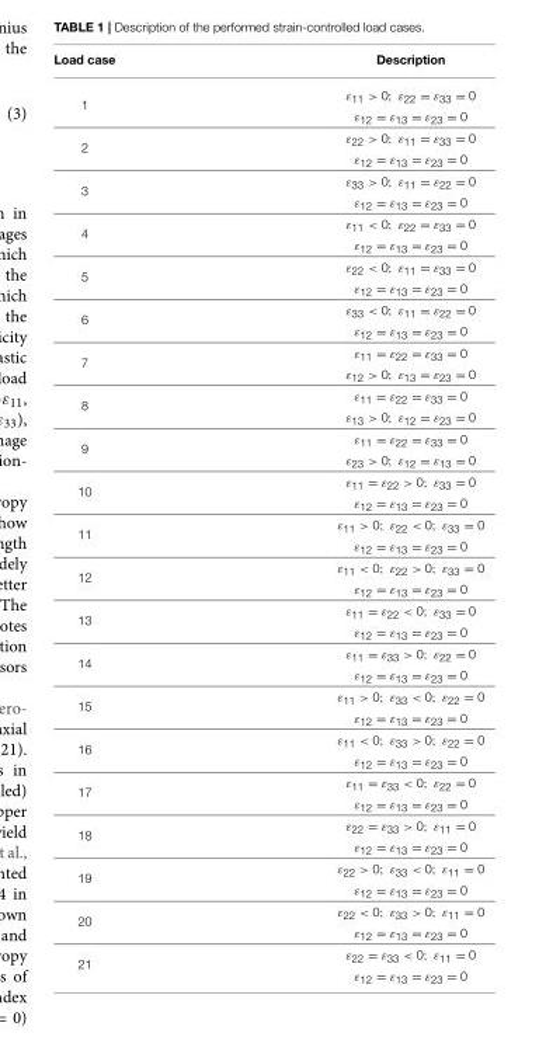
<table><thead><tr><td>Load case</td><td>Description</td></tr></thead><tbody><tr><td rowspan="2">1</td><td>ε<sub>11</sub> &gt; 0; ε<sub>22</sub> = ε<sub>33</sub> = 0</td></tr><tr><td>ε<sub>12</sub> = ε<sub>13</sub> = ε<sub>23</sub> = 0</td></tr><tr><td rowspan="2">2</td><td>ε<sub>22</sub> &gt; 0; ε<sub>11</sub> = ε<sub>33</sub> = 0</td></tr><tr><td>ε<sub>12</sub> = ε<sub>13</sub> = ε<sub>23</sub> = 0</td></tr><tr><td rowspan="2">3</td><td>ε<sub>33</sub> &gt; 0; ε<sub>11</sub> = ε<sub>22</sub> = 0</td></tr><tr><td>ε<sub>12</sub> = ε<sub>13</sub> = ε<sub>23</sub> = 0</td></tr><tr><td rowspan="2">4</td><td>ε<sub>11</sub> &lt; 0; ε<sub>22</sub> = ε<sub>33</sub> = 0</td></tr><tr><td>ε<sub>12</sub> = ε<sub>13</sub> = ε<sub>23</sub> = 0</td></tr><tr><td rowspan="2">5</td><td>ε<sub>22</sub> &lt; 0; ε<sub>11</sub> = ε<sub>33</sub> = 0</td></tr><tr><td>ε<sub>12</sub> = ε<sub>13</sub> = ε<sub>23</sub> = 0</td></tr><tr><td rowspan="2">6</td><td>ε<sub>33</sub> &lt; 0; ε<sub>11</sub> = ε<sub>22</sub> = 0</td></tr><tr><td>ε<sub>12</sub> = ε<sub>13</sub> = ε<sub>23</sub> = 0</td></tr><tr><td rowspan="2">7</td><td>ε<sub>11</sub> = ε<sub>22</sub> = ε<sub>33</sub> = 0</td></tr><tr><td>ε<sub>12</sub> &gt; 0; ε<sub>13</sub> = ε<sub>23</sub> = 0</td></tr><tr><td rowspan="2">8</td><td>ε<sub>11</sub> = ε<sub>22</sub> = ε<sub>33</sub> = 0</td></tr><tr><td>ε<sub>13</sub> &gt; 0; ε<sub>12</sub> = ε<sub>23</sub> = 0</td></tr><tr><td rowspan="2">9</td><td>ε<sub>11</sub> = ε<sub>22</sub> = ε<sub>33</sub> = 0</td></tr><tr><td>ε<sub>23</sub> &gt; 0; ε<sub>12</sub> = ε<sub>13</sub> = 0</td></tr><tr><td rowspan="2">10</td><td>ε<sub>11</sub> = ε<sub>22</sub> &gt; 0; ε<sub>33</sub> = 0</td></tr><tr><td>ε<sub>12</sub> = ε<sub>13</sub> = ε<sub>23</sub> = 0</td></tr><tr><td rowspan="2">11</td><td>ε<sub>11</sub> &gt; 0; ε<sub>22</sub> &lt; 0; ε<sub>33</sub> = 0</td></tr><tr><td>ε<sub>12</sub> = ε<sub>13</sub> = ε<sub>23</sub> = 0</td></tr><tr><td rowspan="2">12</td><td>ε<sub>11</sub> &lt; 0; ε<sub>22</sub> &gt; 0; ε<sub>33</sub> = 0</td></tr><tr><td>ε<sub>12</sub> = ε<sub>13</sub> = ε<sub>23</sub> = 0</td></tr><tr><td rowspan="2">13</td><td>ε<sub>11</sub> = ε<sub>22</sub> &lt; 0; ε<sub>33</sub> = 0</td></tr><tr><td>ε<sub>12</sub> = ε<sub>13</sub> = ε<sub>23</sub> = 0</td></tr><tr><td rowspan="2">14</td><td>ε<sub>11</sub> = ε<sub>33</sub> &gt; 0; ε<sub>22</sub> = 0</td></tr><tr><td>ε<sub>12</sub> = ε<sub>13</sub> = ε<sub>23</sub> = 0</td></tr><tr><td rowspan="2">15</td><td>ε<sub>11</sub> &gt; 0; ε<sub>33</sub> &lt; 0; ε<sub>22</sub> = 0</td></tr><tr><td>ε<sub>12</sub> = ε<sub>13</sub> = ε<sub>23</sub> = 0</td></tr><tr><td rowspan="2">16</td><td>ε<sub>11</sub> &lt; 0; ε<sub>33</sub> &gt; 0; ε<sub>22</sub> = 0</td></tr><tr><td>ε<sub>12</sub> = ε<sub>13</sub> = ε<sub>23</sub> = 0</td></tr><tr><td rowspan="2">17</td><td>ε<sub>11</sub> = ε<sub>33</sub> &lt; 0; ε<sub>22</sub> = 0</td></tr><tr><td>ε<sub>12</sub> = ε<sub>13</sub> = ε<sub>23</sub> = 0</td></tr><tr><td rowspan="2">18</td><td>ε<sub>22</sub> = ε<sub>33</sub> &gt; 0; ε<sub>11</sub> = 0</td></tr><tr><td>ε<sub>12</sub> = ε<sub>13</sub> = ε<sub>23</sub> = 0</td></tr><tr><td rowspan="2">19</td><td>ε<sub>22</sub> &gt; 0; ε<sub>33</sub> &lt; 0; ε<sub>11</sub> = 0</td></tr><tr><td>ε<sub>12</sub> = ε<sub>13</sub> = ε<sub>23</sub> = 0</td></tr><tr><td rowspan="2">20</td><td>ε<sub>22</sub> &lt; 0; ε<sub>33</sub> &gt; 0; ε<sub>11</sub> = 0</td></tr><tr><td>ε<sub>12</sub> = ε<sub>13</sub> = ε<sub>23</sub> = 0</td></tr><tr><td rowspan="2">21</td><td>ε<sub>22</sub> = ε<sub>33</sub> &lt; 0; ε<sub>11</sub> = 0</td></tr><tr><td>ε<sub>12</sub> = ε<sub>13</sub> = ε<sub>23</sub> = 0</td></tr></tbody></table>